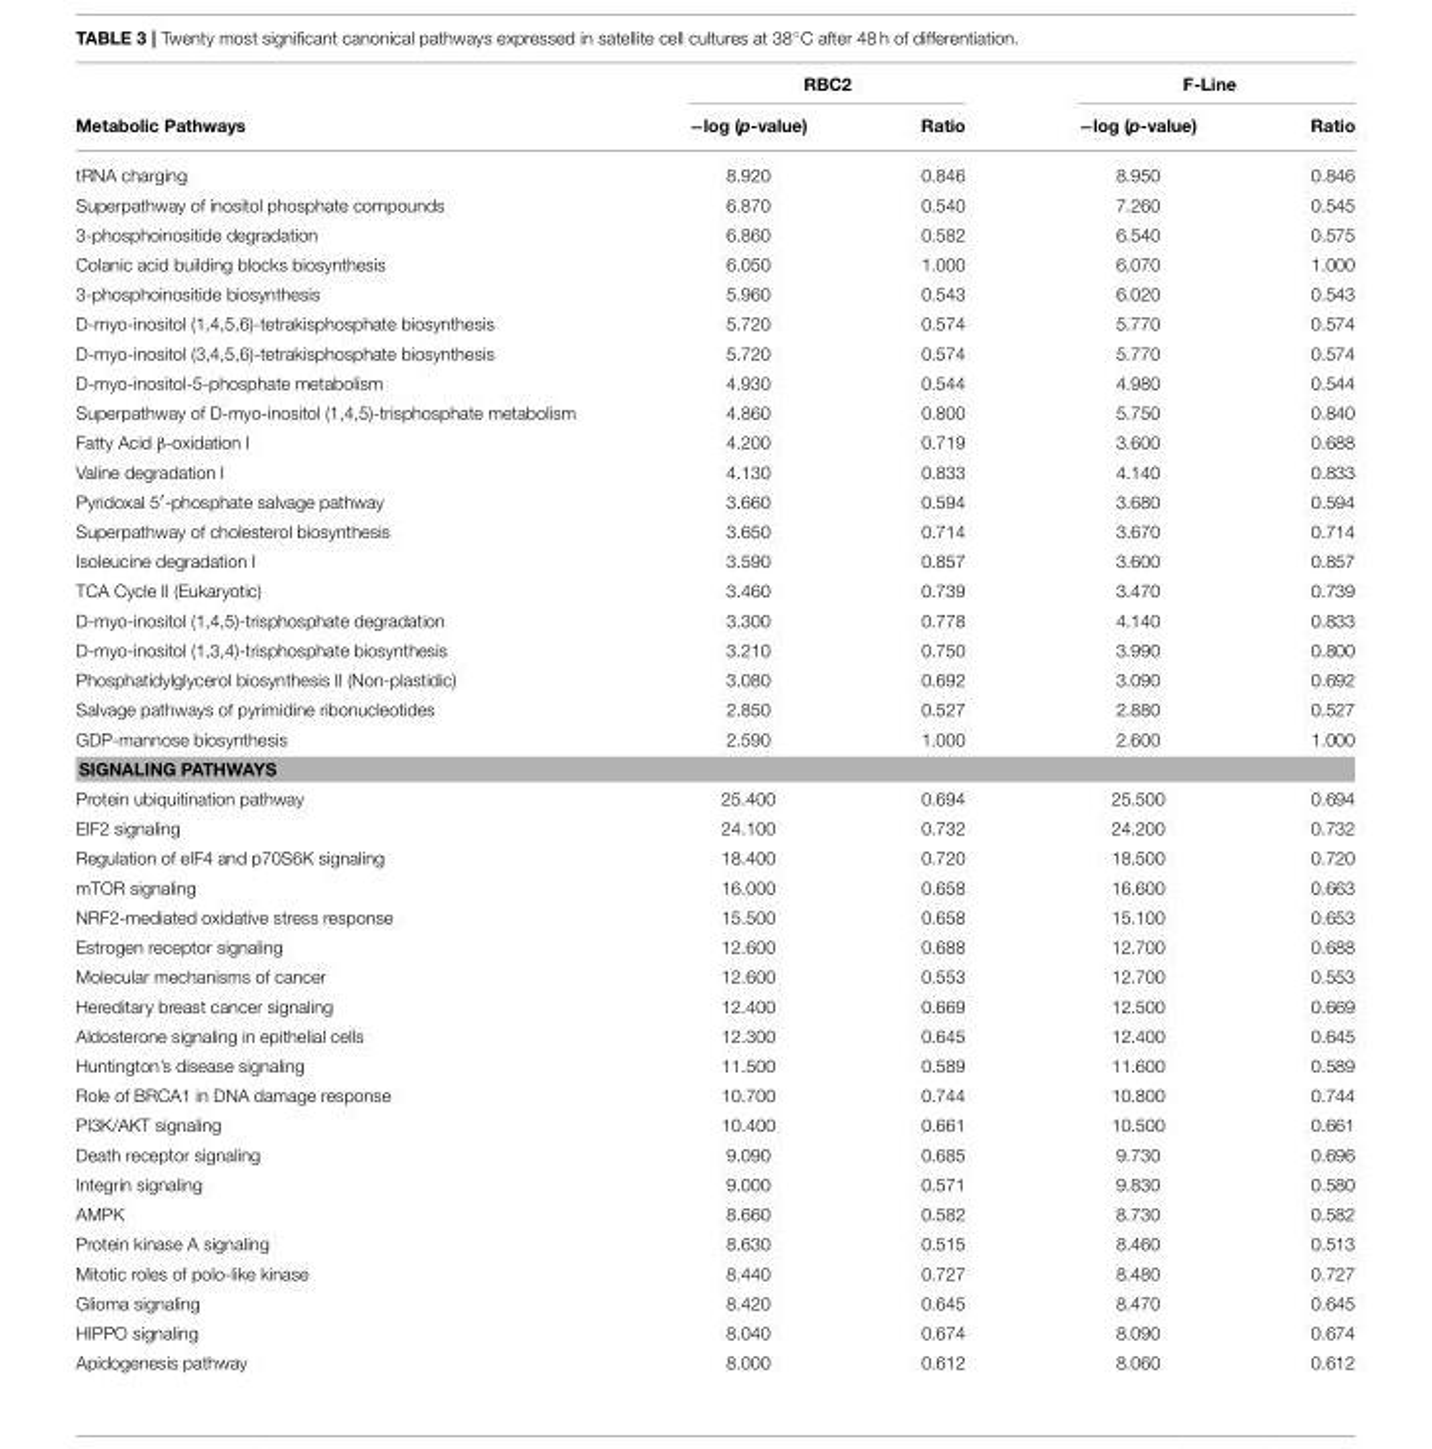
<table><thead><tr><td rowspan="2">Metabolic Pathways</td><td colspan="2">RBC2</td><td colspan="2">F-Line</td></tr><tr><td>−log (p-value)</td><td>Ratio</td><td>−log (p-value)</td><td>Ratio</td></tr></thead><tbody><tr><td>tRNA charging</td><td>8.920</td><td>0.846</td><td>8.950</td><td>0.846</td></tr><tr><td>Superpathway of inositol phosphate compounds</td><td>6.870</td><td>0.540</td><td>7.260</td><td>0.545</td></tr><tr><td>3-phosphoinositide degradation</td><td>6.860</td><td>0.582</td><td>6.540</td><td>0.575</td></tr><tr><td>Colanic acid building blocks biosynthesis</td><td>6.050</td><td>1.000</td><td>6.070</td><td>1.000</td></tr><tr><td>3-phosphoinositide biosynthesis</td><td>5.960</td><td>0.543</td><td>6.020</td><td>0.543</td></tr><tr><td>D-myo-inositol (1,4,5,6)-tetrakisphosphate biosynthesis</td><td>5.720</td><td>0.574</td><td>5.770</td><td>0.574</td></tr><tr><td>D-myo-inositol (3,4,5,6)-tetrakisphosphate biosynthesis</td><td>5.720</td><td>0.574</td><td>5.770</td><td>0.574</td></tr><tr><td>D-myo-inositol-5-phosphate metabolism</td><td>4.930</td><td>0.544</td><td>4.980</td><td>0.544</td></tr><tr><td>Superpathway of D-myo-inositol (1,4,5)-trisphosphate metabolism</td><td>4.860</td><td>0.800</td><td>5.750</td><td>0.840</td></tr><tr><td>Fatty Acid β-oxidation I</td><td>4.200</td><td>0.719</td><td>3.600</td><td>0.688</td></tr><tr><td>Valine degradation I</td><td>4.130</td><td>0.833</td><td>4.140</td><td>0.833</td></tr><tr><td>Pyridoxal 5′-phosphate salvage pathway</td><td>3.660</td><td>0.594</td><td>3.680</td><td>0.594</td></tr><tr><td>Superpathway of cholesterol biosynthesis</td><td>3.650</td><td>0.714</td><td>3.670</td><td>0.714</td></tr><tr><td>Isoleucine degradation I</td><td>3.590</td><td>0.857</td><td>3.600</td><td>0.857</td></tr><tr><td>TCA Cycle II (Eukaryotic)</td><td>3.460</td><td>0.739</td><td>3.470</td><td>0.739</td></tr><tr><td>D-myo-inositol (1,4,5)-trisphosphate degradation</td><td>3.300</td><td>0.778</td><td>4.140</td><td>0.833</td></tr><tr><td>D-myo-inositol (1,3,4)-trisphosphate biosynthesis</td><td>3.210</td><td>0.750</td><td>3.990</td><td>0.800</td></tr><tr><td>Phosphatidylglycerol biosynthesis II (Non-plastidic)</td><td>3.080</td><td>0.692</td><td>3.090</td><td>0.692</td></tr><tr><td>Salvage pathways of pyrimidine ribonucleotides</td><td>2.850</td><td>0.527</td><td>2.880</td><td>0.527</td></tr><tr><td>GDP-mannose biosynthesis</td><td>2.590</td><td>1.000</td><td>2.600</td><td>1.000</td></tr><tr><td colspan="5">SIGNALING PATHWAYS</td></tr><tr><td>Protein ubiquitination pathway</td><td>25.400</td><td>0.694</td><td>25.500</td><td>0.694</td></tr><tr><td>EIF2 signaling</td><td>24.100</td><td>0.732</td><td>24.200</td><td>0.732</td></tr><tr><td>Regulation of eIF4 and p70S6K signaling</td><td>18.400</td><td>0.720</td><td>18.500</td><td>0.720</td></tr><tr><td>mTOR signaling</td><td>16.000</td><td>0.658</td><td>16.600</td><td>0.663</td></tr><tr><td>NRF2-mediated oxidative stress response</td><td>15.500</td><td>0.658</td><td>15.100</td><td>0.653</td></tr><tr><td>Estrogen receptor signaling</td><td>12.600</td><td>0.688</td><td>12.700</td><td>0.688</td></tr><tr><td>Molecular mechanisms of cancer</td><td>12.600</td><td>0.553</td><td>12.700</td><td>0.553</td></tr><tr><td>Hereditary breast cancer signaling</td><td>12.400</td><td>0.669</td><td>12.500</td><td>0.669</td></tr><tr><td>Aldosterone signaling in epithelial cells</td><td>12.300</td><td>0.645</td><td>12.400</td><td>0.645</td></tr><tr><td>Huntington’s disease signaling</td><td>11.500</td><td>0.589</td><td>11.600</td><td>0.589</td></tr><tr><td>Role of BRCA1 in DNA damage response</td><td>10.700</td><td>0.744</td><td>10.800</td><td>0.744</td></tr><tr><td>PI3K/AKT signaling</td><td>10.400</td><td>0.661</td><td>10.500</td><td>0.661</td></tr><tr><td>Death receptor signaling</td><td>9.090</td><td>0.685</td><td>9.730</td><td>0.696</td></tr><tr><td>Integrin signaling</td><td>9.000</td><td>0.571</td><td>9.830</td><td>0.580</td></tr><tr><td>AMPK</td><td>8.660</td><td>0.582</td><td>8.730</td><td>0.582</td></tr><tr><td>Protein kinase A signaling</td><td>8.630</td><td>0.515</td><td>8.460</td><td>0.513</td></tr><tr><td>Mitotic roles of polo-like kinase</td><td>8.440</td><td>0.727</td><td>8.480</td><td>0.727</td></tr><tr><td>Glioma signaling</td><td>8.420</td><td>0.645</td><td>8.470</td><td>0.645</td></tr><tr><td>HIPPO signaling</td><td>8.040</td><td>0.674</td><td>8.090</td><td>0.674</td></tr><tr><td>Apidogenesis pathway</td><td>8.000</td><td>0.612</td><td>8.060</td><td>0.612</td></tr></tbody></table>